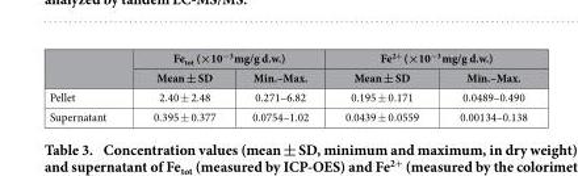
<table><thead><tr><td rowspan="2"></td><td colspan="2">Fe<sub>tot</sub> (×10<sup>−3</sup> mg/g d.w.)</td><td colspan="2">Fe<sup>2+</sup> (×10<sup>−3</sup> mg/g d.w.)</td></tr><tr><td>Mean ± SD</td><td>Min.–Max.</td><td>Mean ± SD</td><td>Min.–Max.</td></tr></thead><tbody><tr><td>Pellet</td><td>2.40 ± 2.48</td><td>0.271–6.82</td><td>0.195 ± 0.171</td><td>0.0489–0.490</td></tr><tr><td>Supernatant</td><td>0.395 ± 0.377</td><td>0.0754–1.02</td><td>0.0439 ± 0.0559</td><td>0.00134–0.138</td></tr></tbody></table>